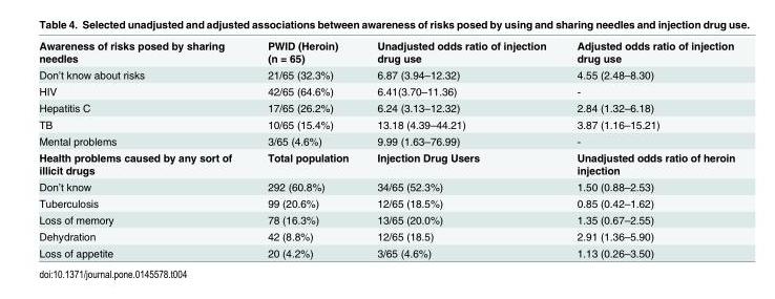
<table><tbody><tr><td>Awareness of risks posed by sharing needles</td><td>PWID (Heroin) (n = 65)</td><td>Unadjusted odds ratio of injection drug use</td><td>Adjusted odds ratio of injection drug use</td></tr><tr><td>Don’t know about risks</td><td>21/65 (32.3%)</td><td>6.87 (3.94–12.32)</td><td>4.55 (2.48–8.30)</td></tr><tr><td>HIV</td><td>42/65 (64.6%)</td><td>6.41(3.70–11.36)</td><td>-</td></tr><tr><td>Hepatitis C</td><td>17/65 (26.2%)</td><td>6.24 (3.13–12.32)</td><td>2.84 (1.32–6.18)</td></tr><tr><td>TB</td><td>10/65 (15.4%)</td><td>13.18 (4.39–44.21)</td><td>3.87 (1.16–15.21)</td></tr><tr><td>Mental problems</td><td>3/65 (4.6%)</td><td>9.99 (1.63–76.99)</td><td>-</td></tr><tr><td>Health problems caused by any sort of illicit drugs</td><td>Total population</td><td>Injection Drug Users</td><td>Unadjusted odds ratio of heroin injection</td></tr><tr><td>Don’t know</td><td>292 (60.8%)</td><td>34/65 (52.3%)</td><td>1.50 (0.88–2.53)</td></tr><tr><td>Tuberculosis</td><td>99 (20.6%)</td><td>12/65 (18.5%)</td><td>0.85 (0.42–1.62)</td></tr><tr><td>Loss of memory</td><td>78 (16.3%)</td><td>13/65 (20.0%)</td><td>1.35 (0.67–2.55)</td></tr><tr><td>Dehydration</td><td>42 (8.8%)</td><td>12/65 (18.5)</td><td>2.91 (1.36–5.90)</td></tr><tr><td>Loss of appetite</td><td>20 (4.2%)</td><td>3/65 (4.6%)</td><td>1.13 (0.26–3.50)</td></tr></tbody></table>